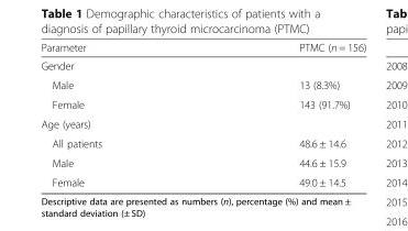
<table><thead><tr><td>Parameter</td><td>PTMC (n = 156)</td></tr></thead><tbody><tr><td colspan="2">Gender</td></tr><tr><td>Male</td><td>13 (8.3%)</td></tr><tr><td>Female</td><td>143 (91.7%)</td></tr><tr><td colspan="2">Age (years)</td></tr><tr><td>All patients</td><td>48.6 ± 14.6</td></tr><tr><td>Male</td><td>44.6 ± 15.9</td></tr><tr><td>Female</td><td>49.0 ± 14.5</td></tr></tbody></table>